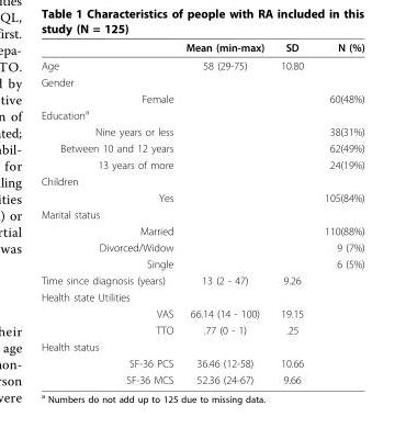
<table><thead><tr><td></td><td>Mean (min-max)</td><td>SD</td><td>N (%)</td></tr></thead><tbody><tr><td>Age</td><td>58 (29-75)</td><td>10.80</td><td></td></tr><tr><td colspan="4">Gender</td></tr><tr><td>Female</td><td></td><td></td><td>60(48%)</td></tr><tr><td colspan="4">Education<sup>a</sup></td></tr><tr><td>Nine years or less</td><td></td><td></td><td>38(31%)</td></tr><tr><td>Between 10 and 12 years</td><td></td><td></td><td>62(49%)</td></tr><tr><td>13 years of more</td><td></td><td></td><td>24(19%)</td></tr><tr><td colspan="4">Children</td></tr><tr><td>Yes</td><td></td><td></td><td>105(84%)</td></tr><tr><td colspan="4">Marital status</td></tr><tr><td>Married</td><td></td><td></td><td>110(88%)</td></tr><tr><td>Divorced/Widow</td><td></td><td></td><td>9 (7%)</td></tr><tr><td>Single</td><td></td><td></td><td>6 (5%)</td></tr><tr><td>Time since diagnosis (years)</td><td>13 (2 - 47)</td><td>9.26</td><td></td></tr><tr><td colspan="4">Health state Utilities</td></tr><tr><td>VAS</td><td>66.14 (14 - 100)</td><td>19.15</td><td></td></tr><tr><td>TTO</td><td>.77 (0 - 1)</td><td>.25</td><td></td></tr><tr><td colspan="4">Health status</td></tr><tr><td>SF-36 PCS</td><td>36.46 (12-58)</td><td>10.66</td><td></td></tr><tr><td>SF-36 MCS</td><td>52.36 (24-67)</td><td>9.66</td><td></td></tr></tbody></table>